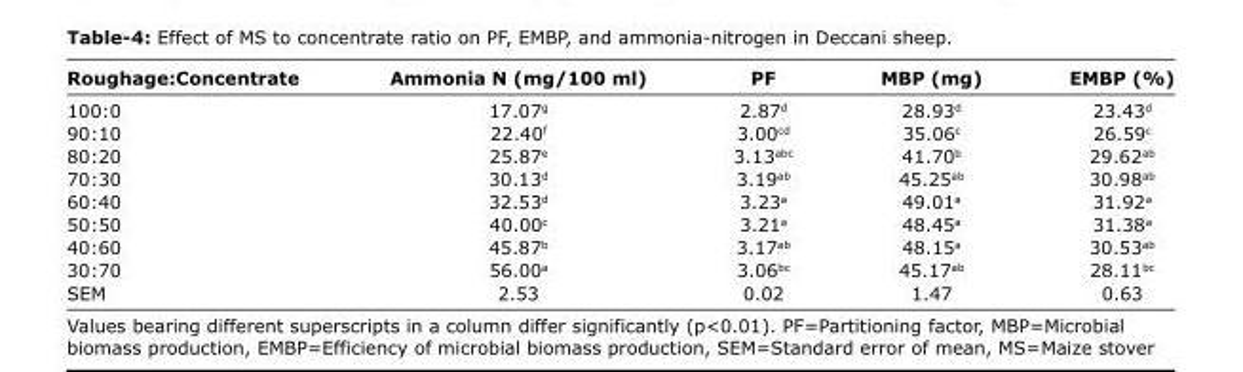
<table><thead><tr><td>Roughage:Concentrate</td><td>Ammonia N (mg/100 ml)</td><td>PF</td><td>MBP (mg)</td><td>EMBP (%)</td></tr></thead><tbody><tr><td>100:0</td><td>17.07<sup>g</sup></td><td>2.87<sup>d</sup></td><td>28.93<sup>d</sup></td><td>23.43<sup>d</sup></td></tr><tr><td>90:10</td><td>22.40<sup>f</sup></td><td>3.00<sup>cd</sup></td><td>35.06<sup>c</sup></td><td>26.59<sup>c</sup></td></tr><tr><td>80:20</td><td>25.87<sup>e</sup></td><td>3.13<sup>abc</sup></td><td>41.70<sup>b</sup></td><td>29.62<sup>ab</sup></td></tr><tr><td>70:30</td><td>30.13<sup>d</sup></td><td>3.19<sup>ab</sup></td><td>45.25<sup>ab</sup></td><td>30.98<sup>ab</sup></td></tr><tr><td>60:40</td><td>32.53<sup>d</sup></td><td>3.23<sup>a</sup></td><td>49.01<sup>a</sup></td><td>31.92<sup>a</sup></td></tr><tr><td>50:50</td><td>40.00<sup>c</sup></td><td>3.21<sup>a</sup></td><td>48.45<sup>a</sup></td><td>31.38<sup>a</sup></td></tr><tr><td>40:60</td><td>45.87<sup>b</sup></td><td>3.17<sup>ab</sup></td><td>48.15<sup>a</sup></td><td>30.53<sup>ab</sup></td></tr><tr><td>30:70</td><td>56.00<sup>a</sup></td><td>3.06<sup>bc</sup></td><td>45.17<sup>ab</sup></td><td>28.11<sup>bc</sup></td></tr><tr><td>SEM</td><td>2.53</td><td>0.02</td><td>1.47</td><td>0.63</td></tr></tbody></table>